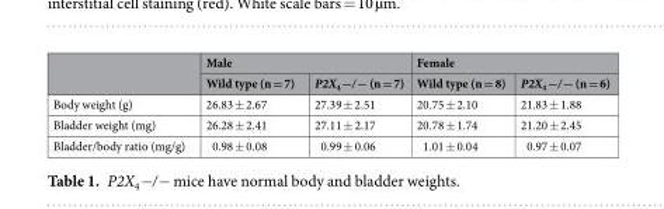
<table><thead><tr><td rowspan="2"></td><td colspan="2">Male</td><td colspan="2">Female</td></tr><tr><td>Wild type (n = 7)</td><td>P2X<sub>4</sub>−/− (n = 7)</td><td>Wild type (n = 8)</td><td>P2X<sub>4</sub>−/− (n = 6)</td></tr></thead><tbody><tr><td>Body weight (g)</td><td>26.83 ± 2.67</td><td>27.39 ± 2.51</td><td>20.75 ± 2.10</td><td>21.83 ± 1.88</td></tr><tr><td>Bladder weight (mg)</td><td>26.28 ± 2.41</td><td>27.11 ± 2.17</td><td>20.78 ± 1.74</td><td>21.20 ± 2.45</td></tr><tr><td>Bladder/body ratio (mg/g)</td><td>0.98 ± 0.08</td><td>0.99 ± 0.06</td><td>1.01 ± 0.04</td><td>0.97 ± 0.07</td></tr></tbody></table>